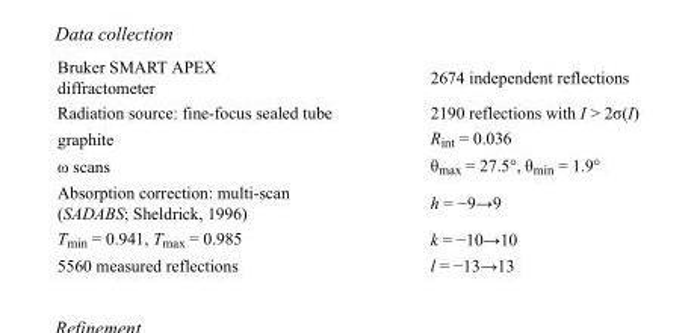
<table><tbody><tr><td>Bruker SMART APEX diffractometer</td><td>2674 independent reflections</td></tr><tr><td>Radiation source: fine-focus sealed tube</td><td>2190 reflections with I &gt; 2σ(I)</td></tr><tr><td>graphite</td><td>R<sub>int</sub> = 0.036</td></tr><tr><td>ω scans</td><td>θ<sub>max</sub> = 27.5°, θ<sub>min</sub> = 1.9°</td></tr><tr><td>Absorption correction: multi-scan (SADABS; Sheldrick, 1996)</td><td>h = −9→9</td></tr><tr><td>T<sub>min</sub> = 0.941, T<sub>max</sub> = 0.985</td><td>k = −10→10</td></tr><tr><td>5560 measured reflections</td><td>l = −13→13</td></tr></tbody></table>